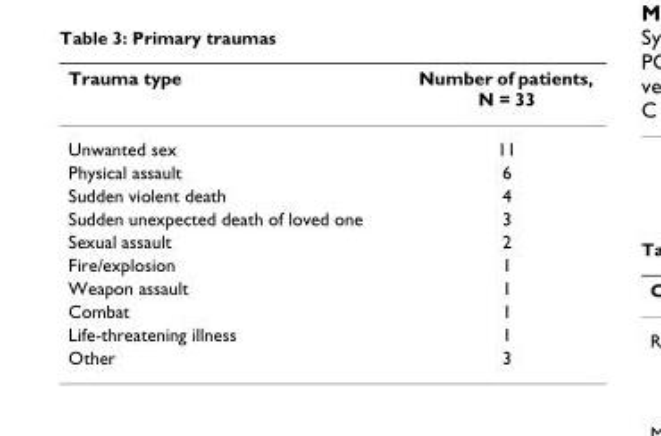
<table><thead><tr><td>Trauma type</td><td>Number of patients, N = 33</td></tr></thead><tbody><tr><td>Unwanted sex</td><td>11</td></tr><tr><td>Physical assault</td><td>6</td></tr><tr><td>Sudden violent death</td><td>4</td></tr><tr><td>Sudden unexpected death of loved one</td><td>3</td></tr><tr><td>Sexual assault</td><td>2</td></tr><tr><td>Fire/explosion</td><td>1</td></tr><tr><td>Weapon assault</td><td>1</td></tr><tr><td>Combat</td><td>1</td></tr><tr><td>Life-threatening illness</td><td>1</td></tr><tr><td>Other</td><td>3</td></tr></tbody></table>